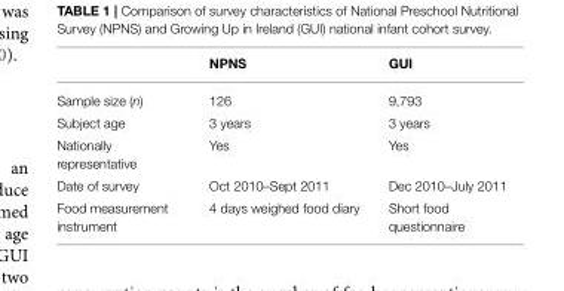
<table><thead><tr><td></td><td>NPNS</td><td>GUI</td></tr></thead><tbody><tr><td>Sample size (n)</td><td>126</td><td>9,793</td></tr><tr><td>Subject age</td><td>3 years</td><td>3 years</td></tr><tr><td>Nationally representative</td><td>Yes</td><td>Yes</td></tr><tr><td>Date of survey</td><td>Oct 2010–Sept 2011</td><td>Dec 2010–July 2011</td></tr><tr><td>Food measurement instrument</td><td>4 days weighed food diary</td><td>Short food questionnaire</td></tr></tbody></table>